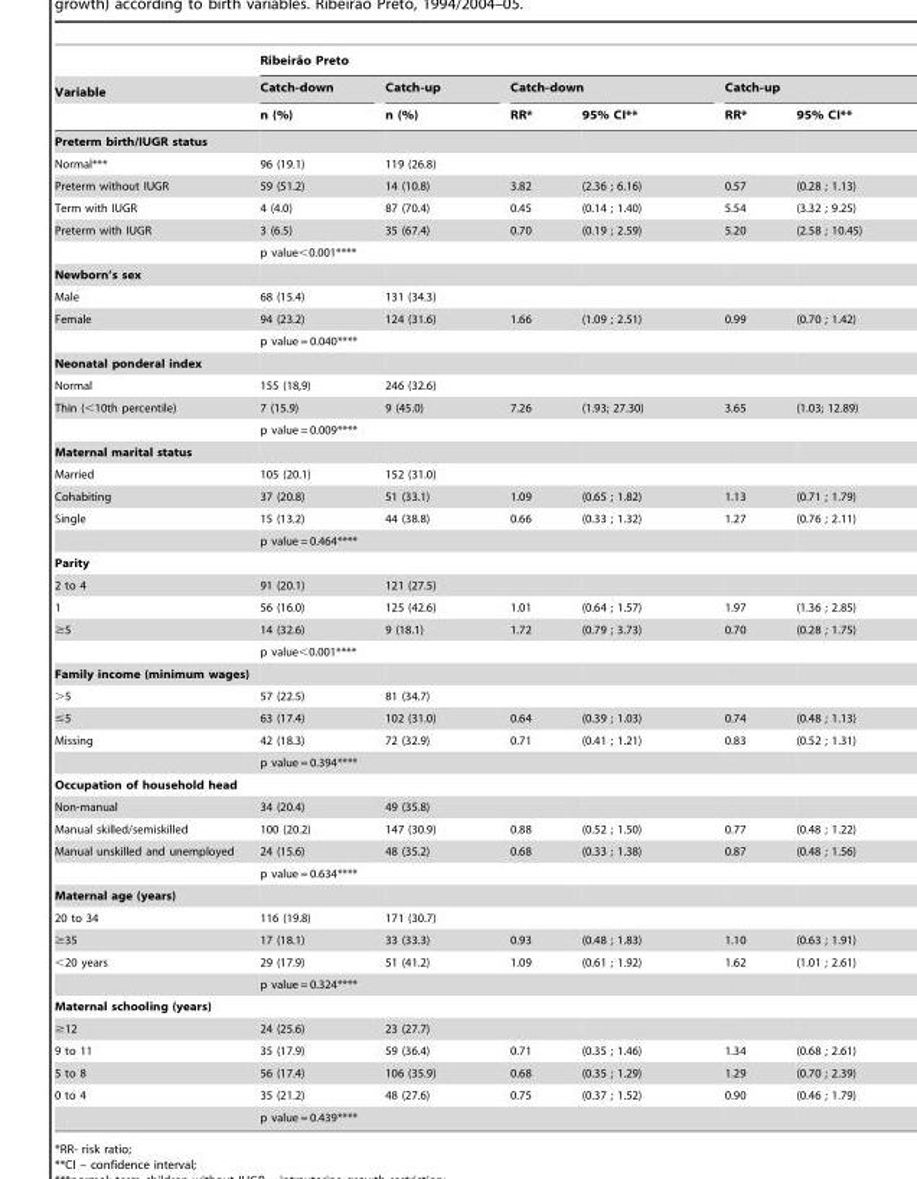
<table><thead><tr><td rowspan="3">Variable</td><td colspan="6">Ribeira˜o Preto</td></tr><tr><td rowspan="2">Catch-down n (%)</td><td rowspan="2">Catch-up n (%)</td><td colspan="2">Catch-down</td><td colspan="2">Catch-up</td></tr><tr><td>RR*</td><td>95% CI**</td><td>RR*</td><td>95% CI**</td></tr></thead><tbody><tr><td colspan="7">Preterm birth/IUGR status</td></tr><tr><td>Normal***</td><td>96 (19.1)</td><td>119 (26.8)</td><td></td><td></td><td></td><td></td></tr><tr><td>Preterm without IUGR</td><td>59 (51.2)</td><td>14 (10.8)</td><td>3.82</td><td>(2.36 ; 6.16)</td><td>0.57</td><td>(0.28 ; 1.13)</td></tr><tr><td>Term with IUGR</td><td>4 (4.0)</td><td>87 (70.4)</td><td>0.45</td><td>(0.14 ; 1.40)</td><td>5.54</td><td>(3.32 ; 9.25)</td></tr><tr><td rowspan="2">Preterm with IUGR</td><td>3 (6.5)</td><td>35 (67.4)</td><td>0.70</td><td>(0.19 ; 2.59)</td><td>5.20</td><td>(2.58 ; 10.45)</td></tr><tr><td colspan="2">p value&lt;0.001****</td><td colspan="2"></td><td></td><td></td></tr><tr><td colspan="7">Newborn’s sex</td></tr><tr><td>Male</td><td>68 (15.4)</td><td>131 (34.3)</td><td></td><td></td><td></td><td></td></tr><tr><td rowspan="2">Female</td><td>94 (23.2)</td><td>124 (31.6)</td><td>1.66</td><td>(1.09 ; 2.51)</td><td>0.99</td><td>(0.70 ; 1.42)</td></tr><tr><td colspan="2">p value = 0.040****</td><td></td><td></td><td></td><td></td></tr><tr><td colspan="7">Neonatal ponderal index</td></tr><tr><td>Normal</td><td>155 (18,9)</td><td>246 (32.6)</td><td></td><td></td><td></td><td></td></tr><tr><td rowspan="2">Thin (&lt;10th percentile)</td><td>7 (15.9)</td><td>9 (45.0)</td><td>7.26</td><td>(1.93; 27.30)</td><td>3.65</td><td>(1.03; 12.89)</td></tr><tr><td colspan="2">p value = 0.009****</td><td></td><td></td><td></td><td></td></tr><tr><td colspan="7">Maternal marital status</td></tr><tr><td>Married</td><td>105 (20.1)</td><td>152 (31.0)</td><td></td><td></td><td></td><td></td></tr><tr><td>Cohabiting</td><td>37 (20.8)</td><td>51 (33.1)</td><td>1.09</td><td>(0.65 ; 1.82)</td><td>1.13</td><td>(0.71 ; 1.79)</td></tr><tr><td rowspan="2">Single</td><td>15 (13.2)</td><td>44 (38.8)</td><td>0.66</td><td>(0.33 ; 1.32)</td><td>1.27</td><td>(0.76 ; 2.11)</td></tr><tr><td colspan="2">p value = 0.464****</td><td colspan="2"></td><td></td><td></td></tr><tr><td colspan="7">Parity</td></tr><tr><td>2 to 4</td><td>91 (20.1)</td><td>121 (27.5)</td><td></td><td></td><td></td><td></td></tr><tr><td>1</td><td>56 (16.0)</td><td>125 (42.6)</td><td>1.01</td><td>(0.64 ; 1.57)</td><td>1.97</td><td>(1.36 ; 2.85)</td></tr><tr><td rowspan="2">≥5</td><td>14 (32.6)</td><td>9 (18.1)</td><td>1.72</td><td>(0.79 ; 3.73)</td><td>0.70</td><td>(0.28 ; 1.75)</td></tr><tr><td colspan="2">p value&lt;0.001****</td><td colspan="2"></td><td></td><td></td></tr><tr><td colspan="7">Family income (minimum wages)</td></tr><tr><td>&gt;5</td><td>57 (22.5)</td><td>81 (34.7)</td><td></td><td></td><td></td><td></td></tr><tr><td>≤5</td><td>63 (17.4)</td><td>102 (31.0)</td><td>0.64</td><td>(0.39 ; 1.03)</td><td>0.74</td><td>(0.48 ; 1.13)</td></tr><tr><td rowspan="2">Missing</td><td>42 (18.3)</td><td>72 (32.9)</td><td>0.71</td><td>(0.41 ; 1.21)</td><td>0.83</td><td>(0.52 ; 1.31)</td></tr><tr><td colspan="2">p value = 0.394****</td><td colspan="2"></td><td></td><td></td></tr><tr><td colspan="7">Occupation of household head</td></tr><tr><td>Non-manual</td><td>34 (20.4)</td><td>49 (35.8)</td><td></td><td></td><td></td><td></td></tr><tr><td>Manual skilled/semiskilled</td><td>100 (20.2)</td><td>147 (30.9)</td><td>0.88</td><td>(0.52 ; 1.50)</td><td>0.77</td><td>(0.48 ; 1.22)</td></tr><tr><td rowspan="2">Manual unskilled and unemployed</td><td>24 (15.6)</td><td>48 (35.2)</td><td>0.68</td><td>(0.33 ; 1.38)</td><td>0.87</td><td>(0.48 ; 1.56)</td></tr><tr><td colspan="2">p value = 0.634****</td><td colspan="2"></td><td></td><td></td></tr><tr><td colspan="7">Maternal age (years)</td></tr><tr><td>20 to 34</td><td>116 (19.8)</td><td>171 (30.7)</td><td></td><td></td><td></td><td></td></tr><tr><td>≥35</td><td>17 (18.1)</td><td>33 (33.3)</td><td>0.93</td><td>(0.48 ; 1.83)</td><td>1.10</td><td>(0.63 ; 1.91)</td></tr><tr><td rowspan="2">&lt;20 years</td><td>29 (17.9)</td><td>51 (41.2)</td><td>1.09</td><td>(0.61 ; 1.92)</td><td>1.62</td><td>(1.01 ; 2.61)</td></tr><tr><td colspan="2">p value = 0.324****</td><td colspan="2"></td><td></td><td></td></tr><tr><td colspan="7">Maternal schooling (years)</td></tr><tr><td>≥12</td><td>24 (25.6)</td><td>23 (27.7)</td><td></td><td></td><td></td><td></td></tr><tr><td>9 to 11</td><td>35 (17.9)</td><td>59 (36.4)</td><td>0.71</td><td>(0.35 ; 1.46)</td><td>1.34</td><td>(0.68 ; 2.61)</td></tr><tr><td>5 to 8</td><td>56 (17.4)</td><td>106 (35.9)</td><td>0.68</td><td>(0.35 ; 1.29)</td><td>1.29</td><td>(0.70 ; 2.39)</td></tr><tr><td rowspan="2">0 to 4</td><td>35 (21.2)</td><td>48 (27.6)</td><td>0.75</td><td>(0.37 ; 1.52)</td><td>0.90</td><td>(0.46 ; 1.79)</td></tr><tr><td colspan="2">p value = 0.439****</td><td colspan="2"></td><td></td><td></td></tr></tbody></table>